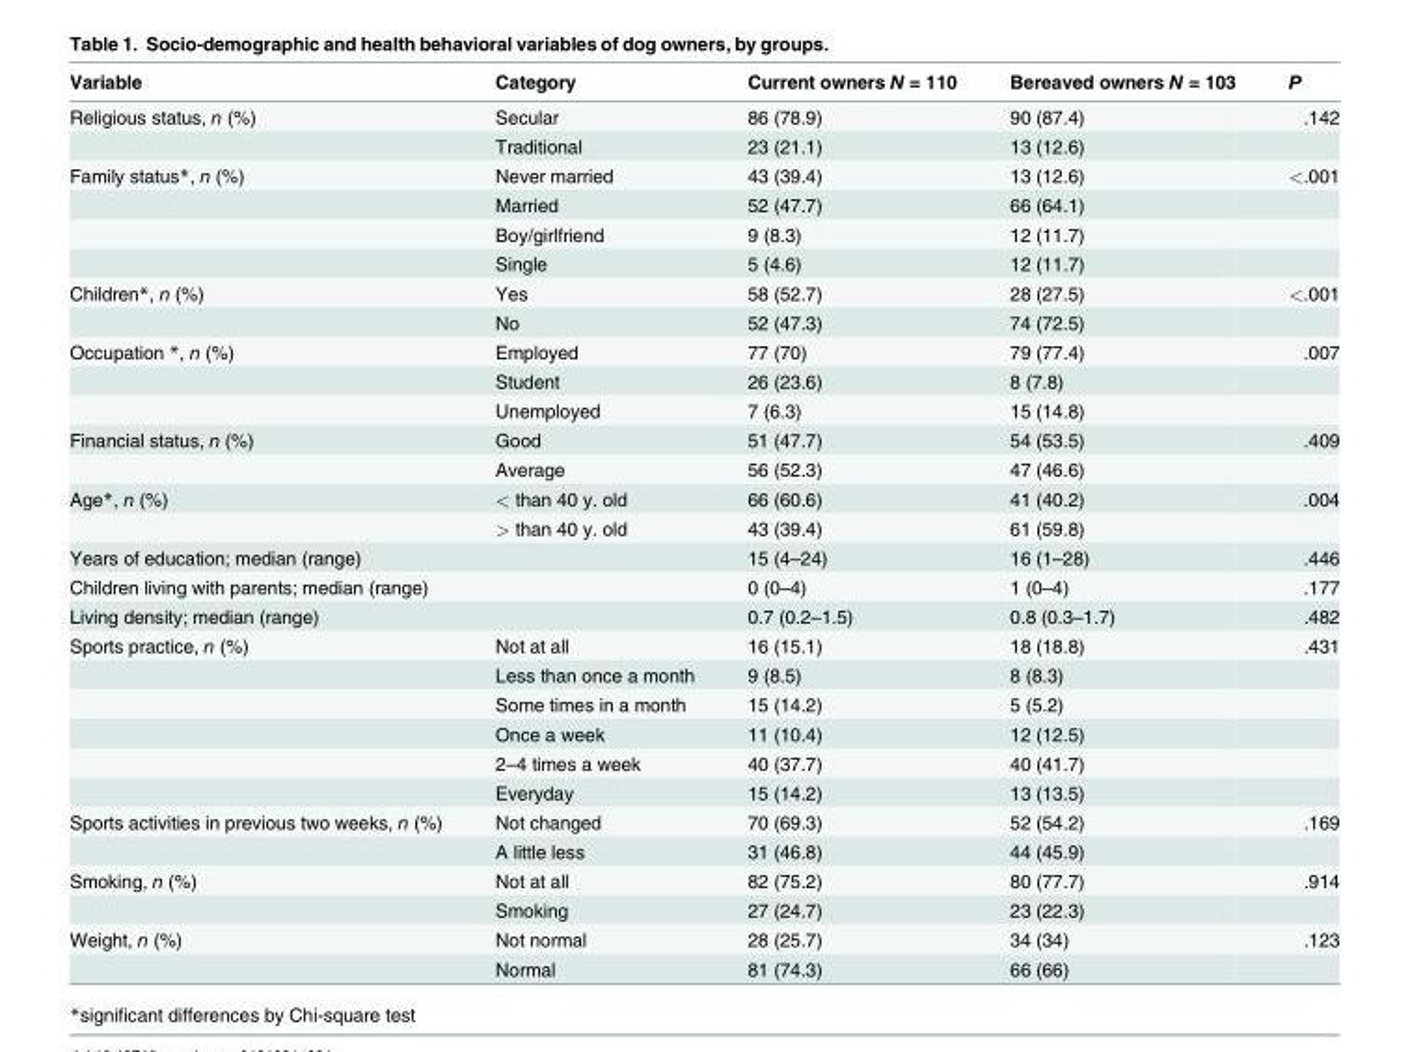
<table><thead><tr><td>Variable</td><td>Category</td><td>Current owners N = 110</td><td>Bereaved owners N = 103</td><td>P</td></tr></thead><tbody><tr><td rowspan="2">Religious status, n (%)</td><td>Secular</td><td>86 (78.9)</td><td>90 (87.4)</td><td>.142</td></tr><tr><td>Traditional</td><td>23 (21.1)</td><td>13 (12.6)</td><td></td></tr><tr><td rowspan="4">Family status*, n (%)</td><td>Never married</td><td>43 (39.4)</td><td>13 (12.6)</td><td>&lt;.001</td></tr><tr><td>Married</td><td>52 (47.7)</td><td>66 (64.1)</td><td></td></tr><tr><td>Boy/girlfriend</td><td>9 (8.3)</td><td>12 (11.7)</td><td></td></tr><tr><td>Single</td><td>5 (4.6)</td><td>12 (11.7)</td><td></td></tr><tr><td rowspan="2">Children*, n (%)</td><td>Yes</td><td>58 (52.7)</td><td>28 (27.5)</td><td>&lt;.001</td></tr><tr><td>No</td><td>52 (47.3)</td><td>74 (72.5)</td><td></td></tr><tr><td rowspan="3">Occupation *, n (%)</td><td>Employed</td><td>77 (70)</td><td>79 (77.4)</td><td>.007</td></tr><tr><td>Student</td><td>26 (23.6)</td><td>8 (7.8)</td><td></td></tr><tr><td>Unemployed</td><td>7 (6.3)</td><td>15 (14.8)</td><td></td></tr><tr><td rowspan="2">Financial status, n (%)</td><td>Good</td><td>51 (47.7)</td><td>54 (53.5)</td><td>.409</td></tr><tr><td>Average</td><td>56 (52.3)</td><td>47 (46.6)</td><td></td></tr><tr><td rowspan="2">Age*, n (%)</td><td>&lt; than 40 y. old</td><td>66 (60.6)</td><td>41 (40.2)</td><td>.004</td></tr><tr><td>&gt; than 40 y. old</td><td>43 (39.4)</td><td>61 (59.8)</td><td></td></tr><tr><td>Years of education; median (range)</td><td></td><td>15 (4–24)</td><td>16 (1–28)</td><td>.446</td></tr><tr><td>Children living with parents; median (range)</td><td></td><td>0 (0–4)</td><td>1 (0–4)</td><td>.177</td></tr><tr><td>Living density; median (range)</td><td></td><td>0.7 (0.2–1.5)</td><td>0.8 (0.3–1.7)</td><td>.482</td></tr><tr><td rowspan="6">Sports practice, n (%)</td><td>Not at all</td><td>16 (15.1)</td><td>18 (18.8)</td><td>.431</td></tr><tr><td>Less than once a month</td><td>9 (8.5)</td><td>8 (8.3)</td><td></td></tr><tr><td>Some times in a month</td><td>15 (14.2)</td><td>5 (5.2)</td><td></td></tr><tr><td>Once a week</td><td>11 (10.4)</td><td>12 (12.5)</td><td></td></tr><tr><td>2–4 times a week</td><td>40 (37.7)</td><td>40 (41.7)</td><td></td></tr><tr><td>Everyday</td><td>15 (14.2)</td><td>13 (13.5)</td><td></td></tr><tr><td rowspan="2">Sports activities in previous two weeks, n (%)</td><td>Not changed</td><td>70 (69.3)</td><td>52 (54.2)</td><td>.169</td></tr><tr><td>A little less</td><td>31 (46.8)</td><td>44 (45.9)</td><td></td></tr><tr><td rowspan="2">Smoking, n (%)</td><td>Not at all</td><td>82 (75.2)</td><td>80 (77.7)</td><td>.914</td></tr><tr><td>Smoking</td><td>27 (24.7)</td><td>23 (22.3)</td><td></td></tr><tr><td rowspan="2">Weight, n (%)</td><td>Not normal</td><td>28 (25.7)</td><td>34 (34)</td><td>.123</td></tr><tr><td>Normal</td><td>81 (74.3)</td><td>66 (66)</td><td></td></tr></tbody></table>